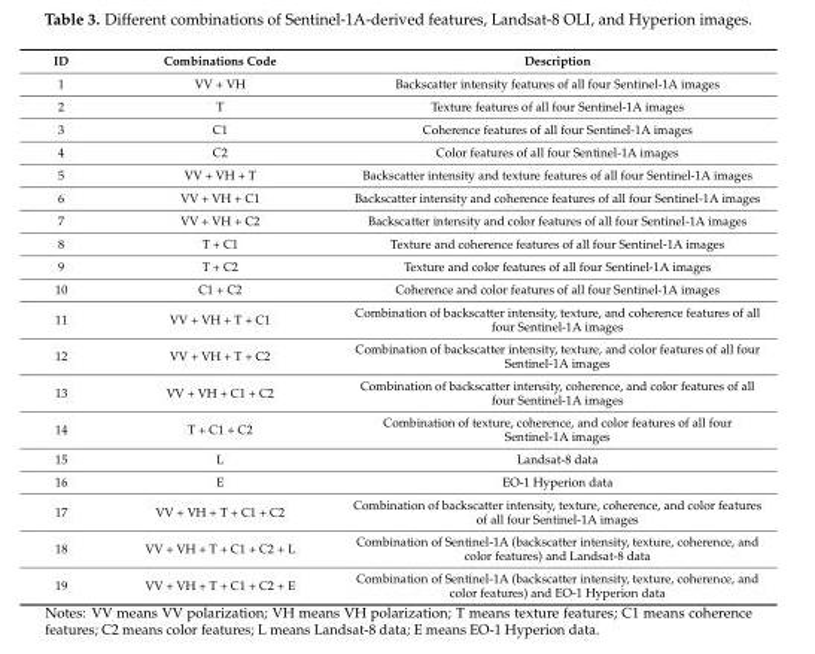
<table><thead><tr><td>ID</td><td>Combinations Code</td><td>Description</td></tr></thead><tbody><tr><td>1</td><td>VV + VH</td><td>Backscatter intensity features of all four Sentinel-1A images</td></tr><tr><td>2</td><td>T</td><td>Texture features of all four Sentinel-1A images</td></tr><tr><td>3</td><td>C1</td><td>Coherence features of all four Sentinel-1A images</td></tr><tr><td>4</td><td>C2</td><td>Color features of all four Sentinel-1A images</td></tr><tr><td>5</td><td>VV + VH + T</td><td>Backscatter intensity and texture features of all four Sentinel-1A images</td></tr><tr><td>6</td><td>VV + VH + C1</td><td>Backscatter intensity and coherence features of all four Sentinel-1A images</td></tr><tr><td>7</td><td>VV + VH + C2</td><td>Backscatter intensity and color features of all four Sentinel-1A images</td></tr><tr><td>8</td><td>T + C1</td><td>Texture and coherence features of all four Sentinel-1A images</td></tr><tr><td>9</td><td>T + C2</td><td>Texture and color features of all four Sentinel-1A images</td></tr><tr><td>10</td><td>C1 + C2</td><td>Coherence and color features of all four Sentinel-1A images</td></tr><tr><td>11</td><td>VV + VH + T + C1</td><td>Combination of backscatter intensity, texture, and coherence features of all four Sentinel-1A images</td></tr><tr><td>12</td><td>VV + VH + T + C2</td><td>Combination of backscatter intensity, texture, and color features of all four Sentinel-1A images</td></tr><tr><td>13</td><td>VV + VH + C1 + C2</td><td>Combination of backscatter intensity, coherence, and color features of all four Sentinel-1A images</td></tr><tr><td>14</td><td>T + C1 + C2</td><td>Combination of texture, coherence, and color features of all four Sentinel-1A images</td></tr><tr><td>15</td><td>L</td><td>Landsat-8 data</td></tr><tr><td>16</td><td>E</td><td>EO-1 Hyperion data</td></tr><tr><td>17</td><td>VV + VH + T + C1 + C2</td><td>Combination of backscatter intensity, texture, coherence, and color features of all four Sentinel-1A images</td></tr><tr><td>18</td><td>VV + VH + T + C1 + C2 + L</td><td>Combination of Sentinel-1A (backscatter intensity, texture, coherence, and color features) and Landsat-8 data</td></tr><tr><td>19</td><td>VV + VH + T + C1 + C2 + E</td><td>Combination of Sentinel-1A (backscatter intensity, texture, coherence, and color features) and EO-1 Hyperion data</td></tr></tbody></table>